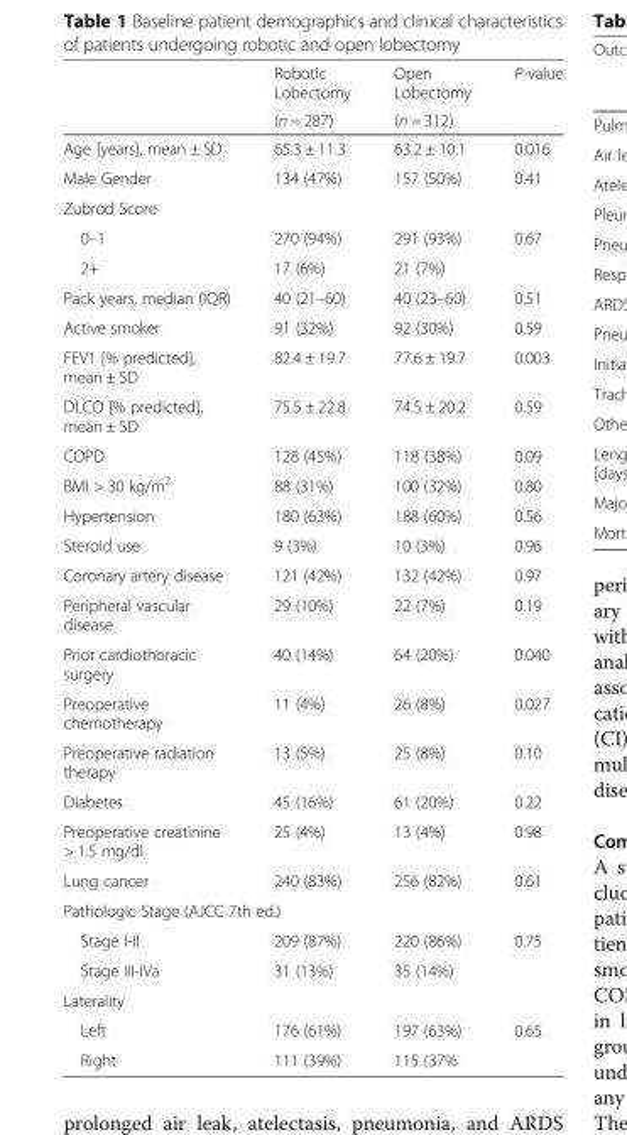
<table><thead><tr><td rowspan="2"></td><td rowspan="2">Robotic Lobectomy (n = 287)</td><td rowspan="2">Open Lobectomy (n = 312)</td><td rowspan="2">P-value</td></tr><tr></tr></thead><tbody><tr><td>Age [years], mean ± SD</td><td>65.3 ± 11.3</td><td>63.2 ± 10.1</td><td>0.016</td></tr><tr><td>Male Gender</td><td>134 (47%)</td><td>157 (50%)</td><td>0.41</td></tr><tr><td colspan="4">Zubrod Score</td></tr><tr><td>0–1</td><td>270 (94%)</td><td>291 (93%)</td><td>0.67</td></tr><tr><td>2+</td><td>17 (6%)</td><td>21 (7%)</td><td></td></tr><tr><td>Pack years, median (IQR)</td><td>40 (21–60)</td><td>40 (23–60)</td><td>0.51</td></tr><tr><td>Active smoker</td><td>91 (32%)</td><td>92 (30%)</td><td>0.59</td></tr><tr><td>FEV1 [% predicted], mean ± SD</td><td>82.4 ± 19.7</td><td>77.6 ± 19.7</td><td>0.003</td></tr><tr><td>DLCO [% predicted], mean ± SD</td><td>75.5 ± 22.8</td><td>74.5 ± 20.2</td><td>0.59</td></tr><tr><td>COPD</td><td>128 (45%)</td><td>118 (38%)</td><td>0.09</td></tr><tr><td>BMI &gt; 30 kg/m<sup>2</sup></td><td>88 (31%)</td><td>100 (32%)</td><td>0.80</td></tr><tr><td>Hypertension</td><td>180 (63%)</td><td>188 (60%)</td><td>0.56</td></tr><tr><td>Steroid use</td><td>9 (3%)</td><td>10 (3%)</td><td>0.96</td></tr><tr><td>Coronary artery disease</td><td>121 (42%)</td><td>132 (42%)</td><td>0.97</td></tr><tr><td>Peripheral vascular disease</td><td>29 (10%)</td><td>22 (7%)</td><td>0.19</td></tr><tr><td>Prior cardiothoracic surgery</td><td>40 (14%)</td><td>64 (20%)</td><td>0.040</td></tr><tr><td>Preoperative chemotherapy</td><td>11 (4%)</td><td>26 (8%)</td><td>0.027</td></tr><tr><td>Preoperative radiation therapy</td><td>13 (5%)</td><td>25 (8%)</td><td>0.10</td></tr><tr><td>Diabetes</td><td>45 (16%)</td><td>61 (20%)</td><td>0.22</td></tr><tr><td>Preoperative creatinine &gt; 1.5 mg/dl</td><td>25 (4%)</td><td>13 (4%)</td><td>0.98</td></tr><tr><td>Lung cancer</td><td>240 (83%)</td><td>256 (82%)</td><td>0.61</td></tr><tr><td colspan="4">Pathologic Stage (AJCC 7th ed.)</td></tr><tr><td>Stage I-II</td><td>209 (87%)</td><td>220 (86%)</td><td>0.75</td></tr><tr><td>Stage III-IVa</td><td>31 (13%)</td><td>35 (14%)</td><td></td></tr><tr><td colspan="4">Laterality</td></tr><tr><td>Left</td><td>176 (61%)</td><td>197 (63%)</td><td>0.65</td></tr><tr><td>Right</td><td>111 (39%)</td><td>115 (37%</td><td></td></tr></tbody></table>